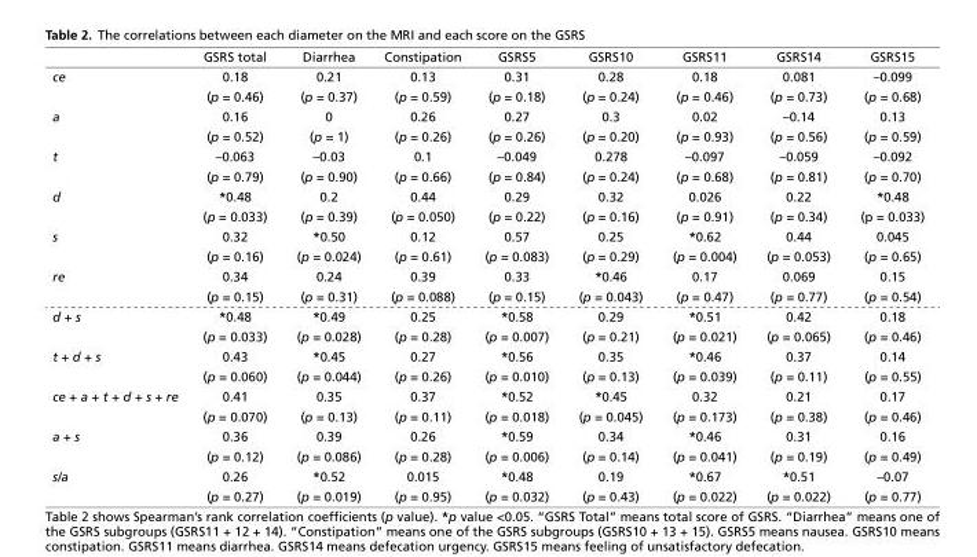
<table><thead><tr><td></td><td>GSRS total</td><td>Diarrhea</td><td>Constipation</td><td>GSRS5</td><td>GSRS10</td><td>GSRS11</td><td>GSRS14</td><td>GSRS15</td></tr></thead><tbody><tr><td rowspan="2">ce</td><td>0.18</td><td>0.21</td><td>0.13</td><td>0.31</td><td>0.28</td><td>0.18</td><td>0.081</td><td>–0.099</td></tr><tr><td>(p = 0.46)</td><td>(p = 0.37)</td><td>(p = 0.59)</td><td>(p = 0.18)</td><td>(p = 0.24)</td><td>(p = 0.46)</td><td>(p = 0.73)</td><td>(p = 0.68)</td></tr><tr><td rowspan="2">a</td><td>0.16</td><td>0</td><td>0.26</td><td>0.27</td><td>0.3</td><td>0.02</td><td>–0.14</td><td>0.13</td></tr><tr><td>(p = 0.52)</td><td>(p = 1)</td><td>(p = 0.26)</td><td>(p = 0.26)</td><td>(p = 0.20)</td><td>(p = 0.93)</td><td>(p = 0.56)</td><td>(p = 0.59)</td></tr><tr><td rowspan="2">t</td><td>–0.063</td><td>–0.03</td><td>0.1</td><td>–0.049</td><td>0.278</td><td>–0.097</td><td>–0.059</td><td>–0.092</td></tr><tr><td>(p = 0.79)</td><td>(p = 0.90)</td><td>(p = 0.66)</td><td>(p = 0.84)</td><td>(p = 0.24)</td><td>(p = 0.68)</td><td>(p = 0.81)</td><td>(p = 0.70)</td></tr><tr><td rowspan="2">d</td><td>*0.48</td><td>0.2</td><td>0.44</td><td>0.29</td><td>0.32</td><td>0.026</td><td>0.22</td><td>*0.48</td></tr><tr><td>(p = 0.033)</td><td>(p = 0.39)</td><td>(p = 0.050)</td><td>(p = 0.22)</td><td>(p = 0.16)</td><td>(p = 0.91)</td><td>(p = 0.34)</td><td>(p = 0.033)</td></tr><tr><td rowspan="2">s</td><td>0.32</td><td>*0.50</td><td>0.12</td><td>0.57</td><td>0.25</td><td>*0.62</td><td>0.44</td><td>0.045</td></tr><tr><td>(p = 0.16)</td><td>(p = 0.024)</td><td>(p = 0.61)</td><td>(p = 0.083)</td><td>(p = 0.29)</td><td>(p = 0.004)</td><td>(p = 0.053)</td><td>(p = 0.65)</td></tr><tr><td rowspan="2">re</td><td>0.34</td><td>0.24</td><td>0.39</td><td>0.33</td><td>*0.46</td><td>0.17</td><td>0.069</td><td>0.15</td></tr><tr><td>(p = 0.15)</td><td>(p = 0.31)</td><td>(p = 0.088)</td><td>(p = 0.15)</td><td>(p = 0.043)</td><td>(p = 0.47)</td><td>(p = 0.77)</td><td>(p = 0.54)</td></tr><tr><td rowspan="2">d + s</td><td>*0.48</td><td>*0.49</td><td>0.25</td><td>*0.58</td><td>0.29</td><td>*0.51</td><td>0.42</td><td>0.18</td></tr><tr><td>(p = 0.033)</td><td>(p = 0.028)</td><td>(p = 0.28)</td><td>(p = 0.007)</td><td>(p = 0.21)</td><td>(p = 0.021)</td><td>(p = 0.065)</td><td>(p = 0.46)</td></tr><tr><td rowspan="2">t + d + s</td><td>0.43</td><td>*0.45</td><td>0.27</td><td>*0.56</td><td>0.35</td><td>*0.46</td><td>0.37</td><td>0.14</td></tr><tr><td>(p = 0.060)</td><td>(p = 0.044)</td><td>(p = 0.26)</td><td>(p = 0.010)</td><td>(p = 0.13)</td><td>(p = 0.039)</td><td>(p = 0.11)</td><td>(p = 0.55)</td></tr><tr><td rowspan="2">ce + a + t + d + s + re</td><td>0.41</td><td>0.35</td><td>0.37</td><td>*0.52</td><td>*0.45</td><td>0.32</td><td>0.21</td><td>0.17</td></tr><tr><td>(p = 0.070)</td><td>(p = 0.13)</td><td>(p = 0.11)</td><td>(p = 0.018)</td><td>(p = 0.045)</td><td>(p = 0.173)</td><td>(p = 0.38)</td><td>(p = 0.46)</td></tr><tr><td rowspan="2">a + s</td><td>0.36</td><td>0.39</td><td>0.26</td><td>*0.59</td><td>0.34</td><td>*0.46</td><td>0.31</td><td>0.16</td></tr><tr><td>(p = 0.12)</td><td>(p = 0.086)</td><td>(p = 0.28)</td><td>(p = 0.006)</td><td>(p = 0.14)</td><td>(p = 0.041)</td><td>(p = 0.19)</td><td>(p = 0.49)</td></tr><tr><td rowspan="2">s/a</td><td>0.26</td><td>*0.52</td><td>0.015</td><td>*0.48</td><td>0.19</td><td>*0.67</td><td>*0.51</td><td>–0.07</td></tr><tr><td>(p = 0.27)</td><td>(p = 0.019)</td><td>(p = 0.95)</td><td>(p = 0.032)</td><td>(p = 0.43)</td><td>(p = 0.022)</td><td>(p = 0.022)</td><td>(p = 0.77)</td></tr></tbody></table>